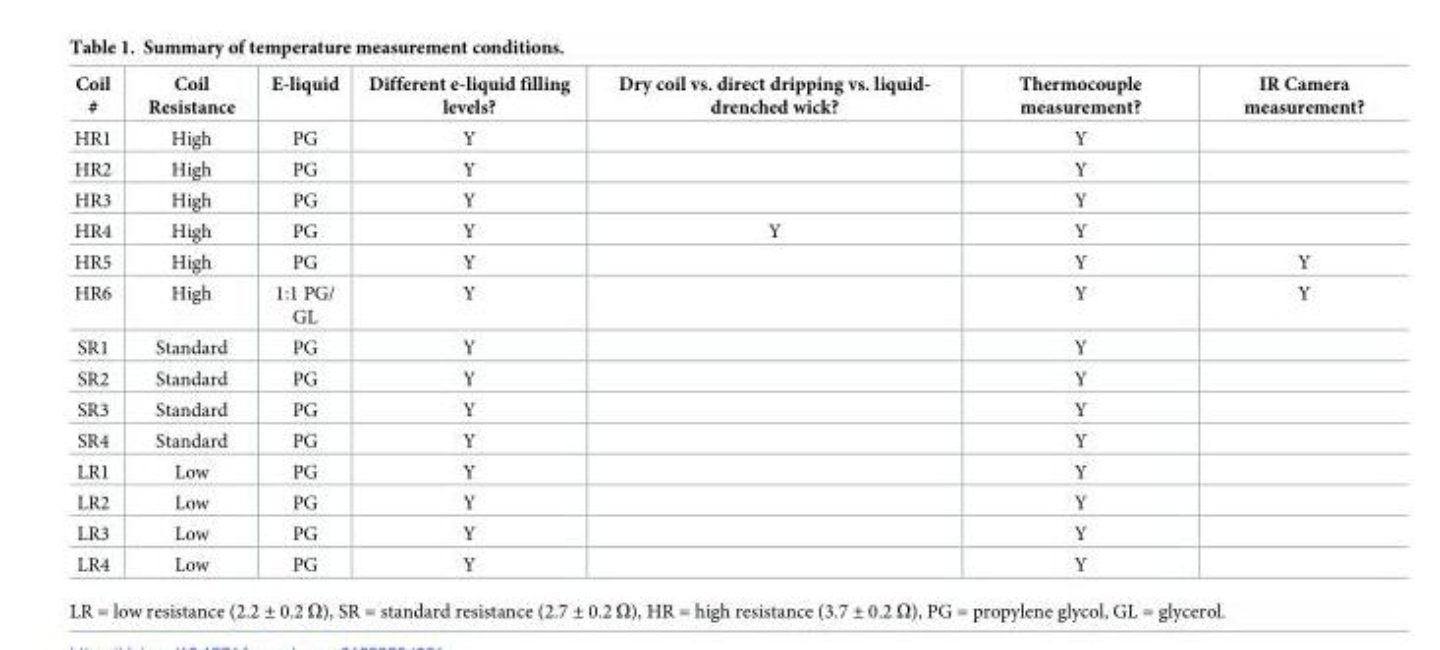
<table><thead><tr><td>Coil #</td><td>Coil Resistance</td><td>E-liquid</td><td>Different e-liquid filling levels?</td><td>Dry coil vs. direct dripping vs. liquid- drenched wick?</td><td>Thermocouple measurement?</td><td>IR Camera measurement?</td></tr></thead><tbody><tr><td>HR1</td><td>High</td><td>PG</td><td>Y</td><td></td><td>Y</td><td></td></tr><tr><td>HR2</td><td>High</td><td>PG</td><td>Y</td><td></td><td>Y</td><td></td></tr><tr><td>HR3</td><td>High</td><td>PG</td><td>Y</td><td></td><td>Y</td><td></td></tr><tr><td>HR4</td><td>High</td><td>PG</td><td>Y</td><td>Y</td><td>Y</td><td></td></tr><tr><td>HR5</td><td>High</td><td>PG</td><td>Y</td><td></td><td>Y</td><td>Y</td></tr><tr><td>HR6</td><td>High</td><td>1:1 PG/ GL</td><td>Y</td><td></td><td>Y</td><td>Y</td></tr><tr><td>SR1</td><td>Standard</td><td>PG</td><td>Y</td><td></td><td>Y</td><td></td></tr><tr><td>SR2</td><td>Standard</td><td>PG</td><td>Y</td><td></td><td>Y</td><td></td></tr><tr><td>SR3</td><td>Standard</td><td>PG</td><td>Y</td><td></td><td>Y</td><td></td></tr><tr><td>SR4</td><td>Standard</td><td>PG</td><td>Y</td><td></td><td>Y</td><td></td></tr><tr><td>LR1</td><td>Low</td><td>PG</td><td>Y</td><td></td><td>Y</td><td></td></tr><tr><td>LR2</td><td>Low</td><td>PG</td><td>Y</td><td></td><td>Y</td><td></td></tr><tr><td>LR3</td><td>Low</td><td>PG</td><td>Y</td><td></td><td>Y</td><td></td></tr><tr><td>LR4</td><td>Low</td><td>PG</td><td>Y</td><td></td><td>Y</td><td></td></tr></tbody></table>